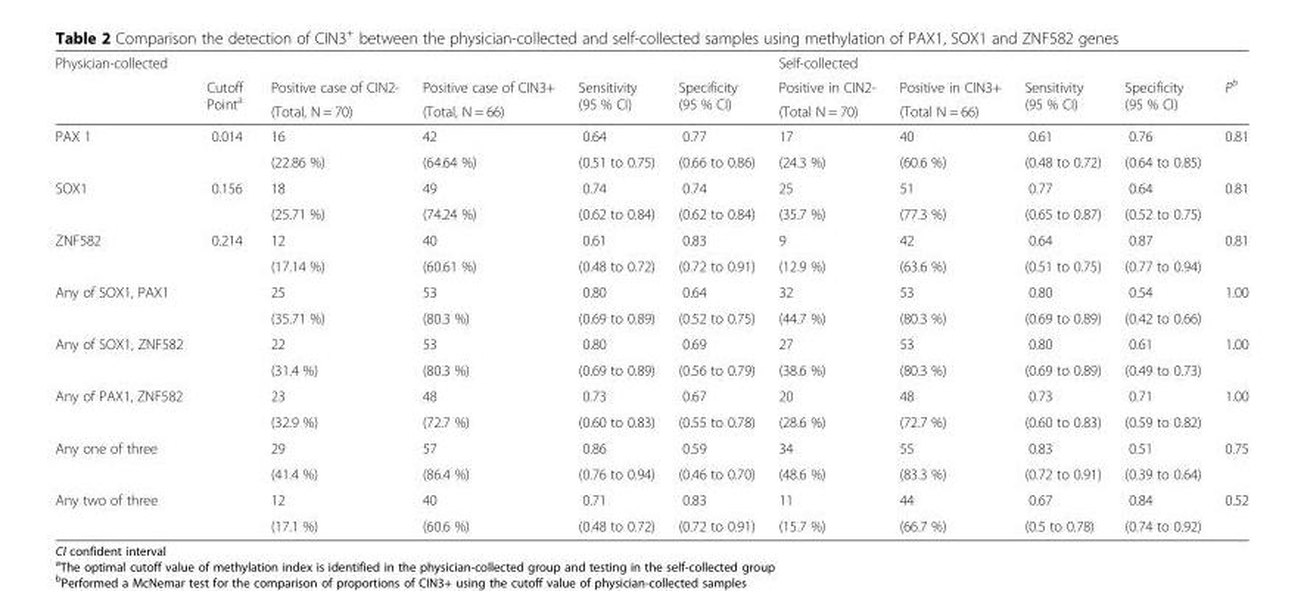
<table><thead><tr><td colspan="6">Physician-collected</td><td colspan="5">Self-collected</td></tr><tr><td rowspan="2"></td><td rowspan="2">Cutoff Point<sup>a</sup></td><td rowspan="2">Positive case of CIN2- (Total, N = 70)</td><td rowspan="2">Positive case of CIN3+ (Total, N = 66)</td><td rowspan="2">Sensitivity (95 % CI)</td><td rowspan="2">Specificity (95 % CI)</td><td rowspan="2">Positive in CIN2- (Total N = 70)</td><td rowspan="2">Positive in CIN3+ (Total N = 66)</td><td rowspan="2">Sensitivity (95 % CI)</td><td rowspan="2">Specificity (95 % CI)</td><td rowspan="2">P<sup>b</sup></td></tr><tr></tr></thead><tbody><tr><td rowspan="2">PAX 1</td><td rowspan="2">0.014</td><td>16</td><td>42</td><td>0.64</td><td>0.77</td><td>17</td><td>40</td><td>0.61</td><td>0.76</td><td rowspan="2">0.81</td></tr><tr><td>(22.86 %)</td><td>(64.64 %)</td><td>(0.51 to 0.75)</td><td>(0.66 to 0.86)</td><td>(24.3 %)</td><td>(60.6 %)</td><td>(0.48 to 0.72)</td><td>(0.64 to 0.85)</td></tr><tr><td rowspan="2">SOX1</td><td rowspan="2">0.156</td><td>18</td><td>49</td><td>0.74</td><td>0.74</td><td>25</td><td>51</td><td>0.77</td><td>0.64</td><td rowspan="2">0.81</td></tr><tr><td>(25.71 %)</td><td>(74.24 %)</td><td>(0.62 to 0.84)</td><td>(0.62 to 0.84)</td><td>(35.7 %)</td><td>(77.3 %)</td><td>(0.65 to 0.87)</td><td>(0.52 to 0.75)</td></tr><tr><td rowspan="2">ZNF582</td><td rowspan="2">0.214</td><td>12</td><td>40</td><td>0.61</td><td>0.83</td><td>9</td><td>42</td><td>0.64</td><td>0.87</td><td rowspan="2">0.81</td></tr><tr><td>(17.14 %)</td><td>(60.61 %)</td><td>(0.48 to 0.72)</td><td>(0.72 to 0.91)</td><td>(12.9 %)</td><td>(63.6 %)</td><td>(0.51 to 0.75)</td><td>(0.77 to 0.94)</td></tr><tr><td rowspan="2">Any of SOX1, PAX1</td><td rowspan="2"></td><td>25</td><td>53</td><td>0.80</td><td>0.64</td><td>32</td><td>53</td><td>0.80</td><td>0.54</td><td rowspan="2">1.00</td></tr><tr><td>(35.71 %)</td><td>(80.3 %)</td><td>(0.69 to 0.89)</td><td>(0.52 to 0.75)</td><td>(44.7 %)</td><td>(80.3 %)</td><td>(0.69 to 0.89)</td><td>(0.42 to 0.66)</td></tr><tr><td rowspan="2">Any of SOX1, ZNF582</td><td rowspan="2"></td><td>22</td><td>53</td><td>0.80</td><td>0.69</td><td>27</td><td>53</td><td>0.80</td><td>0.61</td><td rowspan="2">1.00</td></tr><tr><td>(31.4 %)</td><td>(80.3 %)</td><td>(0.69 to 0.89)</td><td>(0.56 to 0.79)</td><td>(38.6 %)</td><td>(80.3 %)</td><td>(0.69 to 0.89)</td><td>(0.49 to 0.73)</td></tr><tr><td rowspan="2">Any of PAX1, ZNF582</td><td rowspan="2"></td><td>23</td><td>48</td><td>0.73</td><td>0.67</td><td>20</td><td>48</td><td>0.73</td><td>0.71</td><td rowspan="2">1.00</td></tr><tr><td>(32.9 %)</td><td>(72.7 %)</td><td>(0.60 to 0.83)</td><td>(0.55 to 0.78)</td><td>(28.6 %)</td><td>(72.7 %)</td><td>(0.60 to 0.83)</td><td>(0.59 to 0.82)</td></tr><tr><td rowspan="2">Any one of three</td><td rowspan="2"></td><td>29</td><td>57</td><td>0.86</td><td>0.59</td><td>34</td><td>55</td><td>0.83</td><td>0.51</td><td rowspan="2">0.75</td></tr><tr><td>(41.4 %)</td><td>(86.4 %)</td><td>(0.76 to 0.94)</td><td>(0.46 to 0.70)</td><td>(48.6 %)</td><td>(83.3 %)</td><td>(0.72 to 0.91)</td><td>(0.39 to 0.64)</td></tr><tr><td rowspan="2">Any two of three</td><td rowspan="2"></td><td>12</td><td>40</td><td>0.71</td><td>0.83</td><td>11</td><td>44</td><td>0.67</td><td>0.84</td><td rowspan="2">0.52</td></tr><tr><td>(17.1 %)</td><td>(60.6 %)</td><td>(0.48 to 0.72)</td><td>(0.72 to 0.91)</td><td>(15.7 %)</td><td>(66.7 %)</td><td>(0.5 to 0.78)</td><td>(0.74 to 0.92)</td></tr></tbody></table>